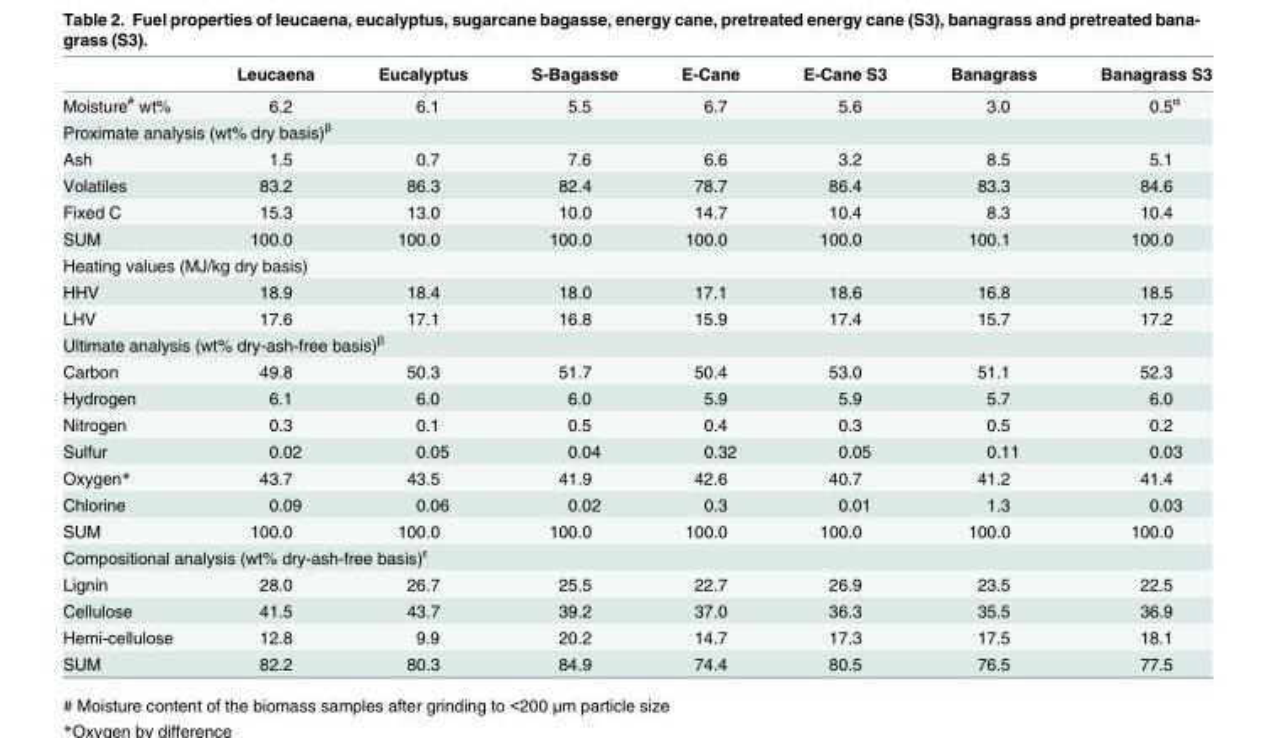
<table><thead><tr><td></td><td>Leucaena</td><td>Eucalyptus</td><td>S-Bagasse</td><td>E-Cane</td><td>E-Cane S3</td><td>Banagrass</td><td>Banagrass S3</td></tr></thead><tbody><tr><td>Moisture<sup>#</sup> wt%</td><td>6.2</td><td>6.1</td><td>5.5</td><td>6.7</td><td>5.6</td><td>3.0</td><td>0.5<sup>α</sup></td></tr><tr><td colspan="8">Proximate analysis (wt% dry basis)<sup>β</sup></td></tr><tr><td>Ash</td><td>1.5</td><td>0.7</td><td>7.6</td><td>6.6</td><td>3.2</td><td>8.5</td><td>5.1</td></tr><tr><td>Volatiles</td><td>83.2</td><td>86.3</td><td>82.4</td><td>78.7</td><td>86.4</td><td>83.3</td><td>84.6</td></tr><tr><td>Fixed C</td><td>15.3</td><td>13.0</td><td>10.0</td><td>14.7</td><td>10.4</td><td>8.3</td><td>10.4</td></tr><tr><td>SUM</td><td>100.0</td><td>100.0</td><td>100.0</td><td>100.0</td><td>100.0</td><td>100.1</td><td>100.0</td></tr><tr><td colspan="8">Heating values (MJ/kg dry basis)</td></tr><tr><td>HHV</td><td>18.9</td><td>18.4</td><td>18.0</td><td>17.1</td><td>18.6</td><td>16.8</td><td>18.5</td></tr><tr><td>LHV</td><td>17.6</td><td>17.1</td><td>16.8</td><td>15.9</td><td>17.4</td><td>15.7</td><td>17.2</td></tr><tr><td colspan="8">Ultimate analysis (wt% dry-ash-free basis)<sup>β</sup></td></tr><tr><td>Carbon</td><td>49.8</td><td>50.3</td><td>51.7</td><td>50.4</td><td>53.0</td><td>51.1</td><td>52.3</td></tr><tr><td>Hydrogen</td><td>6.1</td><td>6.0</td><td>6.0</td><td>5.9</td><td>5.9</td><td>5.7</td><td>6.0</td></tr><tr><td>Nitrogen</td><td>0.3</td><td>0.1</td><td>0.5</td><td>0.4</td><td>0.3</td><td>0.5</td><td>0.2</td></tr><tr><td>Sulfur</td><td>0.02</td><td>0.05</td><td>0.04</td><td>0.32</td><td>0.05</td><td>0.11</td><td>0.03</td></tr><tr><td>Oxygen*</td><td>43.7</td><td>43.5</td><td>41.9</td><td>42.6</td><td>40.7</td><td>41.2</td><td>41.4</td></tr><tr><td>Chlorine</td><td>0.09</td><td>0.06</td><td>0.02</td><td>0.3</td><td>0.01</td><td>1.3</td><td>0.03</td></tr><tr><td>SUM</td><td>100.0</td><td>100.0</td><td>100.0</td><td>100.0</td><td>100.0</td><td>100.0</td><td>100.0</td></tr><tr><td colspan="8">Compositional analysis (wt% dry-ash-free basis)<sup>ε</sup></td></tr><tr><td>Lignin</td><td>28.0</td><td>26.7</td><td>25.5</td><td>22.7</td><td>26.9</td><td>23.5</td><td>22.5</td></tr><tr><td>Cellulose</td><td>41.5</td><td>43.7</td><td>39.2</td><td>37.0</td><td>36.3</td><td>35.5</td><td>36.9</td></tr><tr><td>Hemi-cellulose</td><td>12.8</td><td>9.9</td><td>20.2</td><td>14.7</td><td>17.3</td><td>17.5</td><td>18.1</td></tr><tr><td>SUM</td><td>82.2</td><td>80.3</td><td>84.9</td><td>74.4</td><td>80.5</td><td>76.5</td><td>77.5</td></tr></tbody></table>